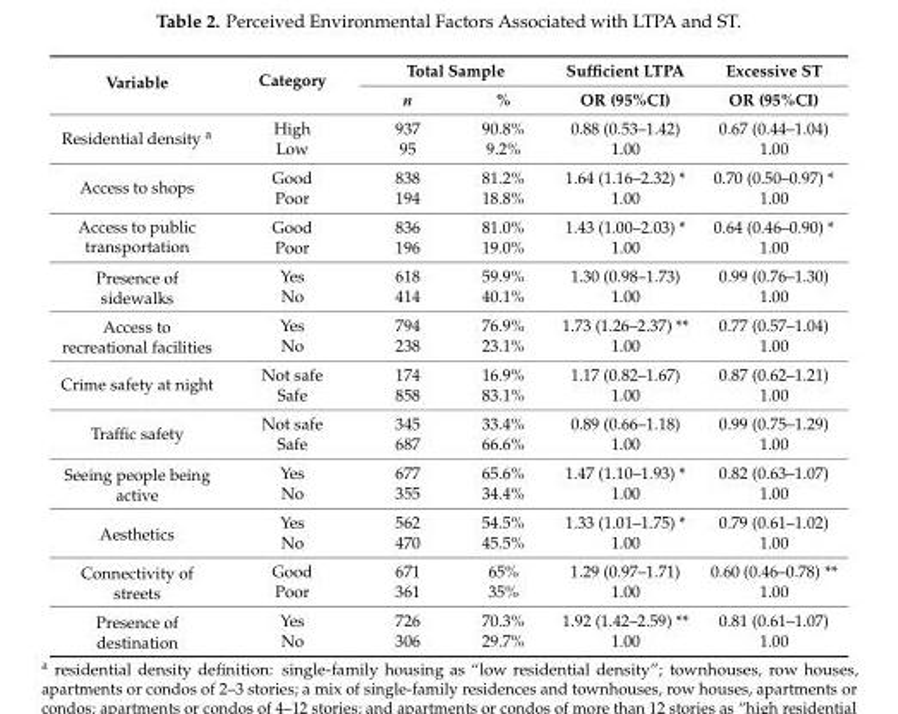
<table><thead><tr><td rowspan="2">Variable</td><td rowspan="2">Category</td><td colspan="2">Total Sample</td><td rowspan="2">Sufficient LTPA OR (95%CI)</td><td rowspan="2">Excessive ST OR (95%CI)</td></tr><tr><td>n</td><td>%</td></tr></thead><tbody><tr><td rowspan="2">Residential density <sup>a</sup></td><td>High</td><td>937</td><td>90.8%</td><td>0.88 (0.53–1.42)</td><td>0.67 (0.44–1.04)</td></tr><tr><td>Low</td><td>95</td><td>9.2%</td><td>1.00</td><td>1.00</td></tr><tr><td rowspan="2">Access to shops</td><td>Good</td><td>838</td><td>81.2%</td><td>1.64 (1.16–2.32) *</td><td>0.70 (0.50–0.97) *</td></tr><tr><td>Poor</td><td>194</td><td>18.8%</td><td>1.00</td><td>1.00</td></tr><tr><td rowspan="2">Access to public transportation</td><td>Good</td><td>836</td><td>81.0%</td><td>1.43 (1.00–2.03) *</td><td>0.64 (0.46–0.90) *</td></tr><tr><td>Poor</td><td>196</td><td>19.0%</td><td>1.00</td><td>1.00</td></tr><tr><td rowspan="2">Presence of sidewalks</td><td>Yes</td><td>618</td><td>59.9%</td><td>1.30 (0.98–1.73)</td><td>0.99 (0.76–1.30)</td></tr><tr><td>No</td><td>414</td><td>40.1%</td><td>1.00</td><td>1.00</td></tr><tr><td rowspan="2">Access to recreational facilities</td><td>Yes</td><td>794</td><td>76.9%</td><td>1.73 (1.26–2.37) **</td><td>0.77 (0.57–1.04)</td></tr><tr><td>No</td><td>238</td><td>23.1%</td><td>1.00</td><td>1.00</td></tr><tr><td rowspan="2">Crime safety at night</td><td>Not safe</td><td>174</td><td>16.9%</td><td>1.17 (0.82–1.67)</td><td>0.87 (0.62–1.21)</td></tr><tr><td>Safe</td><td>858</td><td>83.1%</td><td>1.00</td><td>1.00</td></tr><tr><td rowspan="2">Traffic safety</td><td>Not safe</td><td>345</td><td>33.4%</td><td>0.89 (0.66–1.18)</td><td>0.99 (0.75–1.29)</td></tr><tr><td>Safe</td><td>687</td><td>66.6%</td><td>1.00</td><td>1.00</td></tr><tr><td rowspan="2">Seeing people being active</td><td>Yes</td><td>677</td><td>65.6%</td><td>1.47 (1.10–1.93) *</td><td>0.82 (0.63–1.07)</td></tr><tr><td>No</td><td>355</td><td>34.4%</td><td>1.00</td><td>1.00</td></tr><tr><td rowspan="2">Aesthetics</td><td>Yes</td><td>562</td><td>54.5%</td><td>1.33 (1.01–1.75) *</td><td>0.79 (0.61–1.02)</td></tr><tr><td>No</td><td>470</td><td>45.5%</td><td>1.00</td><td>1.00</td></tr><tr><td rowspan="2">Connectivity of streets</td><td>Good</td><td>671</td><td>65%</td><td>1.29 (0.97–1.71)</td><td>0.60 (0.46–0.78) **</td></tr><tr><td>Poor</td><td>361</td><td>35%</td><td>1.00</td><td>1.00</td></tr><tr><td rowspan="2">Presence of destination</td><td>Yes</td><td>726</td><td>70.3%</td><td>1.92 (1.42–2.59) **</td><td>0.81 (0.61–1.07)</td></tr><tr><td>No</td><td>306</td><td>29.7%</td><td>1.00</td><td>1.00</td></tr></tbody></table>